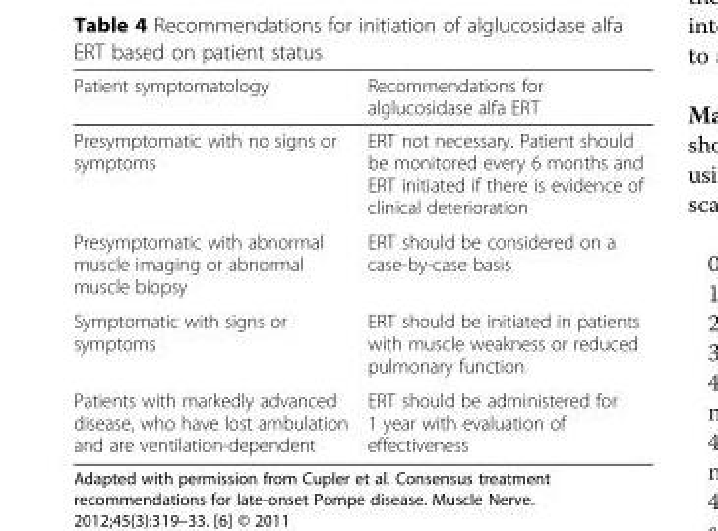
<table><thead><tr><td>Patient symptomatology</td><td>Recommendations for alglucosidase alfa ERT</td></tr></thead><tbody><tr><td>Presymptomatic with no signs or symptoms</td><td>ERT not necessary. Patient should be monitored every 6 months and ERT initiated if there is evidence of clinical deterioration</td></tr><tr><td>Presymptomatic with abnormal muscle imaging or abnormal muscle biopsy</td><td>ERT should be considered on a case-by-case basis</td></tr><tr><td>Symptomatic with signs or symptoms</td><td>ERT should be initiated in patients with muscle weakness or reduced pulmonary function</td></tr><tr><td>Patients with markedly advanced disease, who have lost ambulation and are ventilation-dependent</td><td>ERT should be administered for 1 year with evaluation of effectiveness</td></tr></tbody></table>